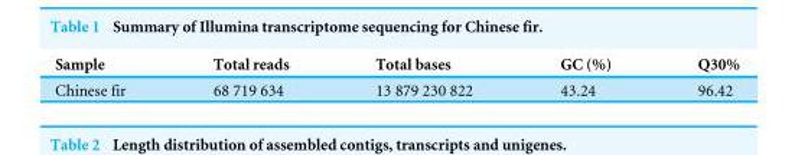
<table><thead><tr><td>Sample</td><td>Total reads</td><td>Total bases</td><td>GC (%)</td><td>Q30%</td></tr></thead><tbody><tr><td>Chinese fir</td><td>68 719 634</td><td>13 879 230 822</td><td>43.24</td><td>96.42</td></tr></tbody></table>